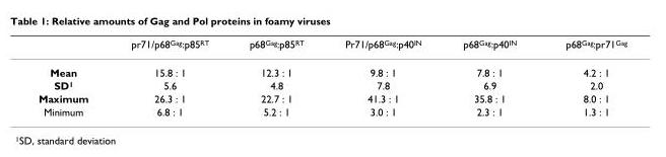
<table><thead><tr><td></td><td>pr71/p68<sup>Gag</sup>:p85<sup>RT</sup></td><td>p68<sup>Gag</sup>:p85<sup>RT</sup></td><td>Pr71/p68<sup>Gag</sup>:p40<sup>IN</sup></td><td>p68<sup>Gag</sup>:p40<sup>IN</sup></td><td>p68<sup>Gag</sup>:pr71<sup>Gag</sup></td></tr></thead><tbody><tr><td>Mean</td><td>15.8 : 1</td><td>12.3 : 1</td><td>9.8 : 1</td><td>7.8 : 1</td><td>4.2 : 1</td></tr><tr><td>SD<sup>1</sup></td><td>5.6</td><td>4.8</td><td>7.8</td><td>6.9</td><td>2.0</td></tr><tr><td>Maximum</td><td>26.3 : 1</td><td>22.7 : 1</td><td>41.3 : 1</td><td>35.8 : 1</td><td>8.0 : 1</td></tr><tr><td>Minimum</td><td>6.8 : 1</td><td>5.2 : 1</td><td>3.0 : 1</td><td>2.3 : 1</td><td>1.3 : 1</td></tr></tbody></table>